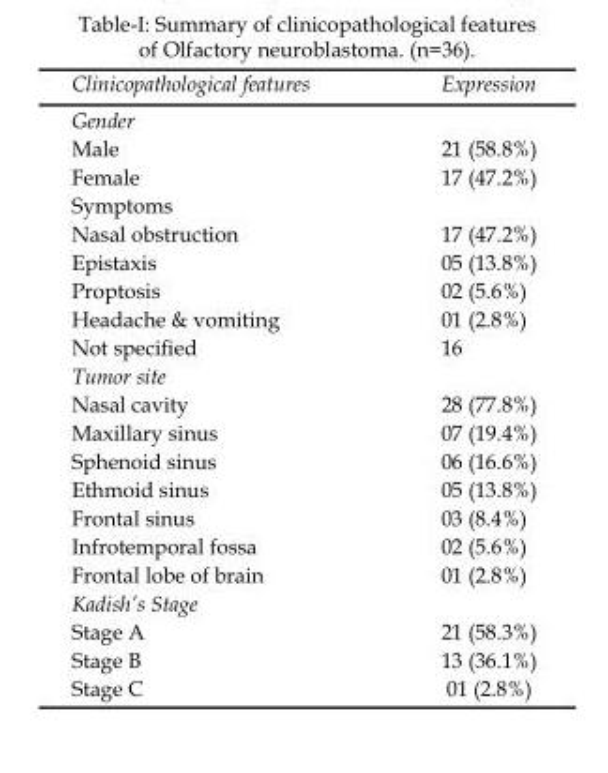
<table><thead><tr><td>Clinicopathological features</td><td>Expression</td></tr></thead><tbody><tr><td colspan="2">Gender</td></tr><tr><td>Male</td><td>21 (58.8%)</td></tr><tr><td>Female</td><td>17 (47.2%)</td></tr><tr><td colspan="2">Symptoms</td></tr><tr><td>Nasal obstruction</td><td>17 (47.2%)</td></tr><tr><td>Epistaxis</td><td>05 (13.8%)</td></tr><tr><td>Proptosis</td><td>02 (5.6%)</td></tr><tr><td>Headache &amp; vomiting</td><td>01 (2.8%)</td></tr><tr><td>Not specified</td><td>16</td></tr><tr><td colspan="2">Tumor site</td></tr><tr><td>Nasal cavity</td><td>28 (77.8%)</td></tr><tr><td>Maxillary sinus</td><td>07 (19.4%)</td></tr><tr><td>Sphenoid sinus</td><td>06 (16.6%)</td></tr><tr><td>Ethmoid sinus</td><td>05 (13.8%)</td></tr><tr><td>Frontal sinus</td><td>03 (8.4%)</td></tr><tr><td>Infrotemporal fossa</td><td>02 (5.6%)</td></tr><tr><td>Frontal lobe of brain</td><td>01 (2.8%)</td></tr><tr><td colspan="2">Kadish’s Stage</td></tr><tr><td>Stage A</td><td>21 (58.3%)</td></tr><tr><td>Stage B</td><td>13 (36.1%)</td></tr><tr><td>Stage C</td><td>01 (2.8%)</td></tr></tbody></table>